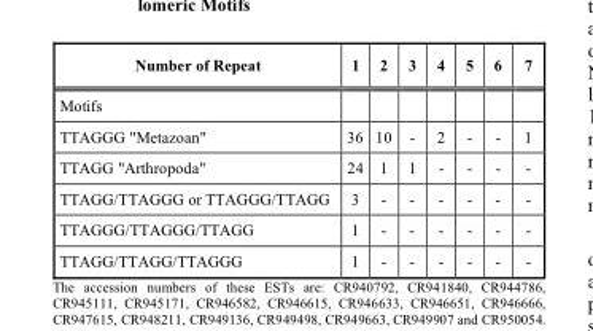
<table><thead><tr><td>Number of Repeat</td><td>1</td><td>2</td><td>3</td><td>4</td><td>5</td><td>6</td><td>7</td></tr></thead><tbody><tr><td colspan="8">Motifs</td></tr><tr><td>TTAGGG &quot;Metazoan&quot;</td><td>36</td><td>10</td><td>-</td><td>2</td><td>-</td><td>-</td><td>1</td></tr><tr><td>TTAGG &quot;Arthropoda&quot;</td><td>24</td><td>1</td><td>1</td><td>-</td><td>-</td><td>-</td><td>-</td></tr><tr><td>TTAGG/TTAGGG or TTAGGG/TTAGG</td><td>3</td><td>-</td><td>-</td><td>-</td><td>-</td><td>-</td><td>-</td></tr><tr><td>TTAGGG/TTAGGG/TTAGG</td><td>1</td><td>-</td><td>-</td><td>-</td><td>-</td><td>-</td><td>-</td></tr><tr><td>TTAGG/TTAGG/TTAGGG</td><td>1</td><td>-</td><td>-</td><td>-</td><td>-</td><td>-</td><td>-</td></tr></tbody></table>